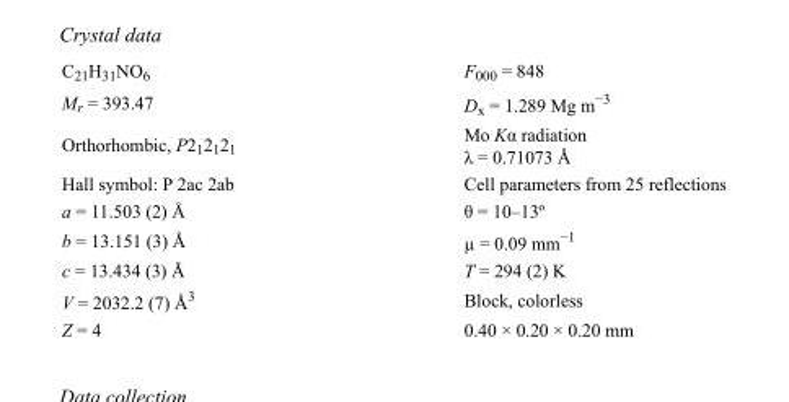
<table><tbody><tr><td>C<sub>21</sub>H<sub>31</sub>NO<sub>6</sub></td><td>F<sub>000</sub> = 848</td></tr><tr><td>M<sub>r</sub> = 393.47</td><td>D<sub>x</sub> = 1.289 Mg m<sup>−3</sup></td></tr><tr><td>Orthorhombic, P2<sub>1</sub>2<sub>1</sub>2<sub>1</sub></td><td>Mo Kα radiation λ = 0.71073 Å</td></tr><tr><td>Hall symbol: P 2ac 2ab</td><td>Cell parameters from 25 reflections</td></tr><tr><td>a = 11.503 (2) Å</td><td>θ = 10–13º</td></tr><tr><td>b = 13.151 (3) Å</td><td>µ = 0.09 mm<sup>−1</sup></td></tr><tr><td>c = 13.434 (3) Å</td><td>T = 294 (2) K</td></tr><tr><td>V = 2032.2 (7) Å<sup>3</sup></td><td>Block, colorless</td></tr><tr><td>Z = 4</td><td>0.40 × 0.20 × 0.20 mm</td></tr></tbody></table>